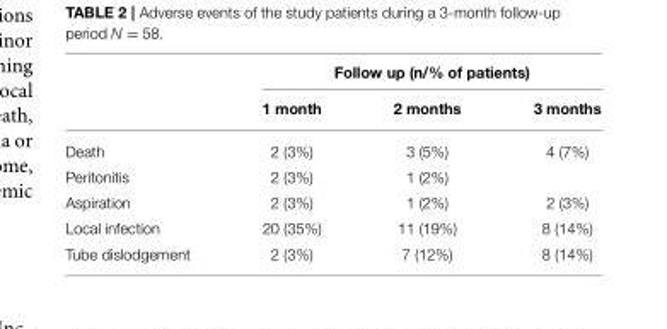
<table><thead><tr><td rowspan="2"></td><td colspan="3">Follow up (n/% of patients)</td></tr><tr><td>1 month</td><td>2 months</td><td>3 months</td></tr></thead><tbody><tr><td>Death</td><td>2 (3%)</td><td>3 (5%)</td><td>4 (7%)</td></tr><tr><td>Peritonitis</td><td>2 (3%)</td><td>1 (2%)</td><td></td></tr><tr><td>Aspiration</td><td>2 (3%)</td><td>1 (2%)</td><td>2 (3%)</td></tr><tr><td>Local infection</td><td>20 (35%)</td><td>11 (19%)</td><td>8 (14%)</td></tr><tr><td>Tube dislodgement</td><td>2 (3%)</td><td>7 (12%)</td><td>8 (14%)</td></tr></tbody></table>